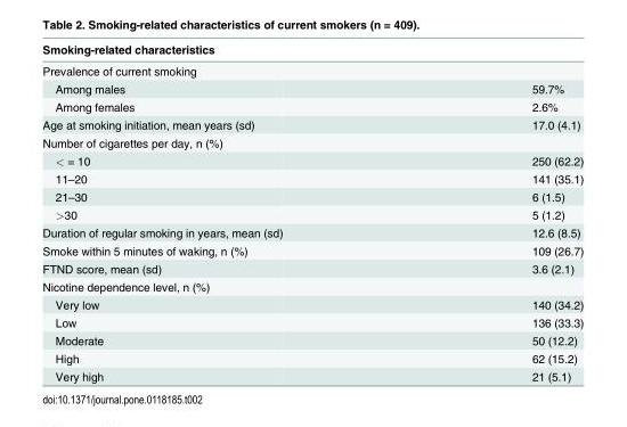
<table><thead><tr><td>Smoking-related characteristics</td><td></td></tr></thead><tbody><tr><td colspan="2">Prevalence of current smoking</td></tr><tr><td>Among males</td><td>59.7%</td></tr><tr><td>Among females</td><td>2.6%</td></tr><tr><td>Age at smoking initiation, mean years (sd)</td><td>17.0 (4.1)</td></tr><tr><td colspan="2">Number of cigarettes per day, n (%)</td></tr><tr><td>&lt; = 10</td><td>250 (62.2)</td></tr><tr><td>11–20</td><td>141 (35.1)</td></tr><tr><td>21–30</td><td>6 (1.5)</td></tr><tr><td>&gt;30</td><td>5 (1.2)</td></tr><tr><td>Duration of regular smoking in years, mean (sd)</td><td>12.6 (8.5)</td></tr><tr><td>Smoke within 5 minutes of waking, n (%)</td><td>109 (26.7)</td></tr><tr><td>FTND score, mean (sd)</td><td>3.6 (2.1)</td></tr><tr><td colspan="2">Nicotine dependence level, n (%)</td></tr><tr><td>Very low</td><td>140 (34.2)</td></tr><tr><td>Low</td><td>136 (33.3)</td></tr><tr><td>Moderate</td><td>50 (12.2)</td></tr><tr><td>High</td><td>62 (15.2)</td></tr><tr><td>Very high</td><td>21 (5.1)</td></tr></tbody></table>